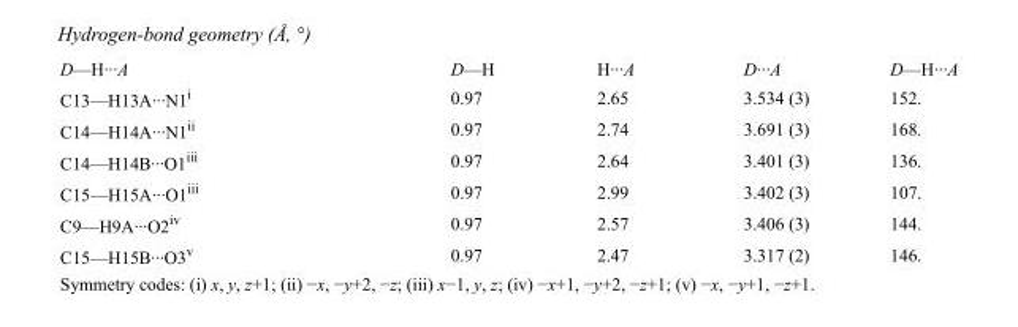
<table><tbody><tr><td>D—H···A</td><td>D—H</td><td>H···A</td><td>D···A</td><td>D—H···A</td></tr><tr><td>C13—H13A···N1<sup>i</sup></td><td>0.97</td><td>2.65</td><td>3.534 (3)</td><td>152.</td></tr><tr><td>C14—H14A···N1<sup>ii</sup></td><td>0.97</td><td>2.74</td><td>3.691 (3)</td><td>168.</td></tr><tr><td>C14—H14B···O1<sup>iii</sup></td><td>0.97</td><td>2.64</td><td>3.401 (3)</td><td>136.</td></tr><tr><td>C15—H15A···O1<sup>iii</sup></td><td>0.97</td><td>2.99</td><td>3.402 (3)</td><td>107.</td></tr><tr><td>C9—H9A···O2<sup>iv</sup></td><td>0.97</td><td>2.57</td><td>3.406 (3)</td><td>144.</td></tr><tr><td>C15—H15B···O3<sup>v</sup></td><td>0.97</td><td>2.47</td><td>3.317 (2)</td><td>146.</td></tr></tbody></table>